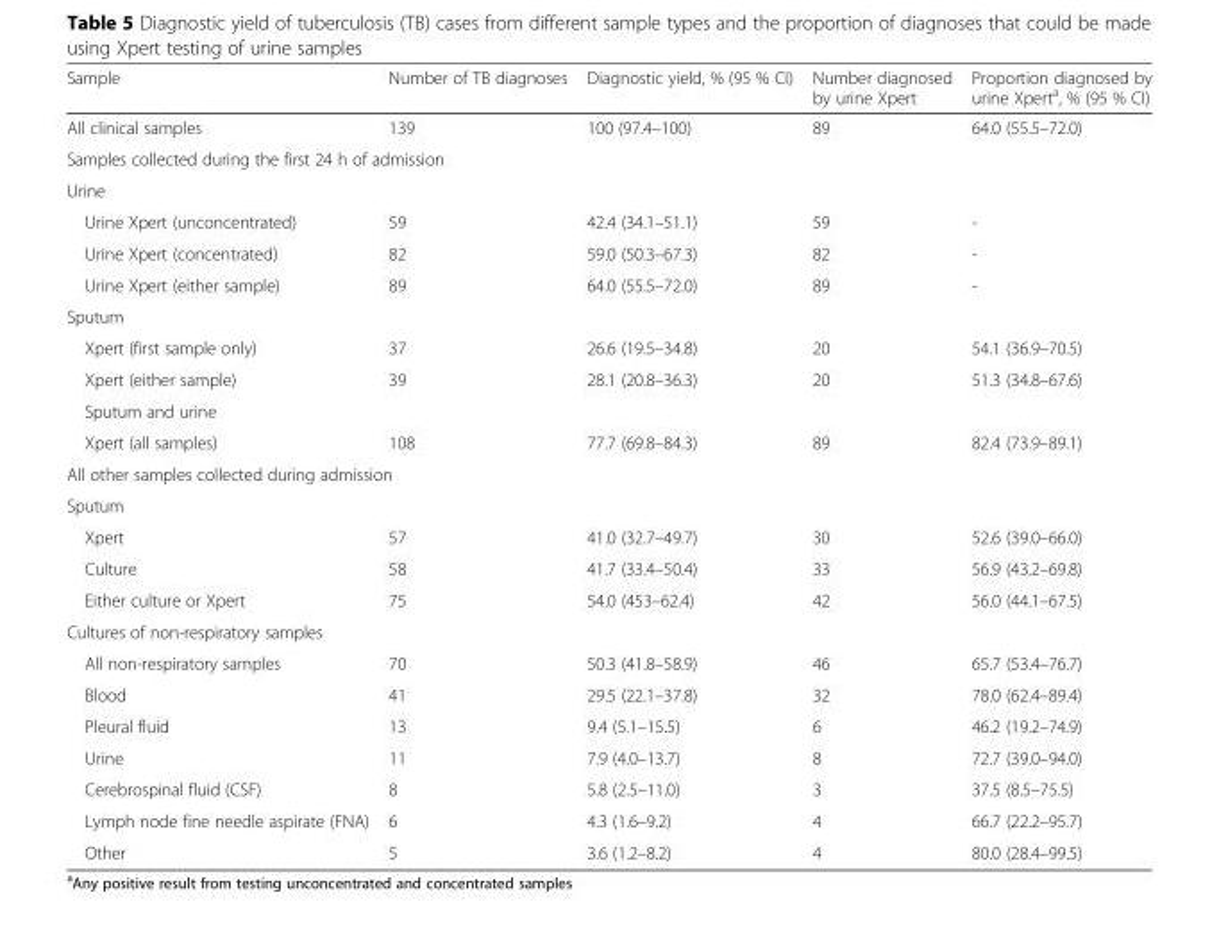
<table><thead><tr><td>Sample</td><td>Number of TB diagnoses</td><td>Diagnostic yield, % (95 % CI)</td><td>Number diagnosed by urine Xpert</td><td>Proportion diagnosed by urine Xpert<sup>a</sup>, % (95 % CI)</td></tr></thead><tbody><tr><td>All clinical samples</td><td>139</td><td>100 (97.4–100)</td><td>89</td><td>64.0 (55.5–72.0)</td></tr><tr><td colspan="5">Samples collected during the first 24 h of admission</td></tr><tr><td colspan="5">Urine</td></tr><tr><td>Urine Xpert (unconcentrated)</td><td>59</td><td>42.4 (34.1–51.1)</td><td>59</td><td>-</td></tr><tr><td>Urine Xpert (concentrated)</td><td>82</td><td>59.0 (50.3–67.3)</td><td>82</td><td>-</td></tr><tr><td>Urine Xpert (either sample)</td><td>89</td><td>64.0 (55.5–72.0)</td><td>89</td><td>-</td></tr><tr><td colspan="5">Sputum</td></tr><tr><td>Xpert (first sample only)</td><td>37</td><td>26.6 (19.5–34.8)</td><td>20</td><td>54.1 (36.9–70.5)</td></tr><tr><td>Xpert (either sample)</td><td>39</td><td>28.1 (20.8–36.3)</td><td>20</td><td>51.3 (34.8–67.6)</td></tr><tr><td colspan="5">Sputum and urine</td></tr><tr><td>Xpert (all samples)</td><td>108</td><td>77.7 (69.8–84.3)</td><td>89</td><td>82.4 (73.9–89.1)</td></tr><tr><td colspan="5">All other samples collected during admission</td></tr><tr><td colspan="5">Sputum</td></tr><tr><td>Xpert</td><td>57</td><td>41.0 (32.7–49.7)</td><td>30</td><td>52.6 (39.0–66.0)</td></tr><tr><td>Culture</td><td>58</td><td>41.7 (33.4–50.4)</td><td>33</td><td>56.9 (43.2–69.8)</td></tr><tr><td>Either culture or Xpert</td><td>75</td><td>54.0 (453–62.4)</td><td>42</td><td>56.0 (44.1–67.5)</td></tr><tr><td colspan="5">Cultures of non-respiratory samples</td></tr><tr><td>All non-respiratory samples</td><td>70</td><td>50.3 (41.8–58.9)</td><td>46</td><td>65.7 (53.4–76.7)</td></tr><tr><td>Blood</td><td>41</td><td>29.5 (22.1–37.8)</td><td>32</td><td>78.0 (62.4–89.4)</td></tr><tr><td>Pleural fluid</td><td>13</td><td>9.4 (5.1–15.5)</td><td>6</td><td>46.2 (19.2–74.9)</td></tr><tr><td>Urine</td><td>11</td><td>7.9 (4.0–13.7)</td><td>8</td><td>72.7 (39.0–94.0)</td></tr><tr><td>Cerebrospinal fluid (CSF)</td><td>8</td><td>5.8 (2.5–11.0)</td><td>3</td><td>37.5 (8.5–75.5)</td></tr><tr><td>Lymph node fine needle aspirate (FNA)</td><td>6</td><td>4.3 (1.6–9.2)</td><td>4</td><td>66.7 (22.2–95.7)</td></tr><tr><td>Other</td><td>5</td><td>3.6 (1.2–8.2)</td><td>4</td><td>80.0 (28.4–99.5)</td></tr></tbody></table>